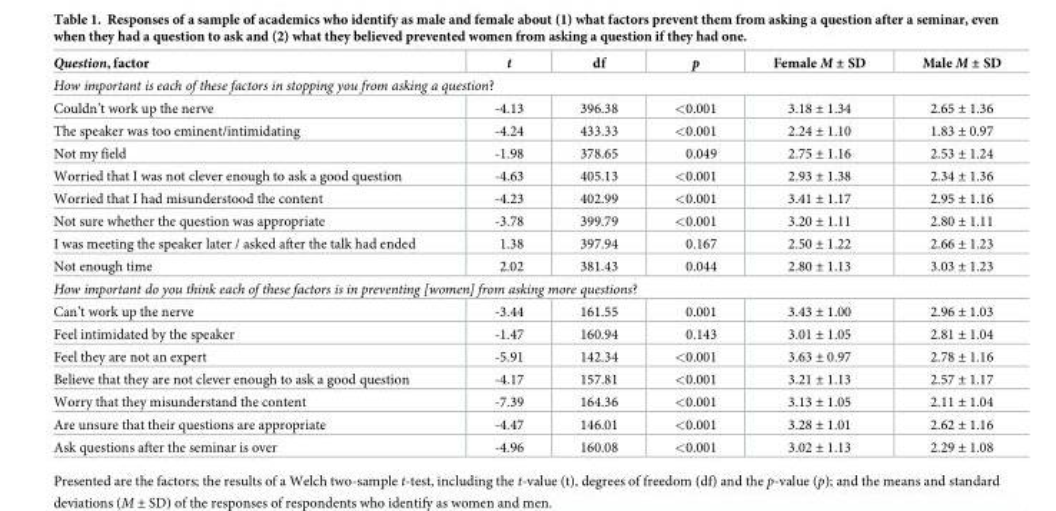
<table><thead><tr><td>Question, factor</td><td>t</td><td>df</td><td>p</td><td>Female M ± SD</td><td>Male M ± SD</td></tr></thead><tbody><tr><td colspan="6">How important is each of these factors in stopping you from asking a question?</td></tr><tr><td>Couldn’t work up the nerve</td><td>-4.13</td><td>396.38</td><td>&lt;0.001</td><td>3.18 ± 1.34</td><td>2.65 ± 1.36</td></tr><tr><td>The speaker was too eminent/intimidating</td><td>-4.24</td><td>433.33</td><td>&lt;0.001</td><td>2.24 ± 1.10</td><td>1.83 ± 0.97</td></tr><tr><td>Not my field</td><td>-1.98</td><td>378.65</td><td>0.049</td><td>2.75 ± 1.16</td><td>2.53 ± 1.24</td></tr><tr><td>Worried that I was not clever enough to ask a good question</td><td>-4.63</td><td>405.13</td><td>&lt;0.001</td><td>2.93 ± 1.38</td><td>2.34 ± 1.36</td></tr><tr><td>Worried that I had misunderstood the content</td><td>-4.23</td><td>402.99</td><td>&lt;0.001</td><td>3.41 ± 1.17</td><td>2.95 ± 1.16</td></tr><tr><td>Not sure whether the question was appropriate</td><td>-3.78</td><td>399.79</td><td>&lt;0.001</td><td>3.20 ± 1.11</td><td>2.80 ± 1.11</td></tr><tr><td>I was meeting the speaker later / asked after the talk had ended</td><td>1.38</td><td>397.94</td><td>0.167</td><td>2.50 ± 1.22</td><td>2.66 ± 1.23</td></tr><tr><td>Not enough time</td><td>2.02</td><td>381.43</td><td>0.044</td><td>2.80 ± 1.13</td><td>3.03 ± 1.23</td></tr><tr><td colspan="6">How important do you think each of these factors is in preventing [women] from asking more questions?</td></tr><tr><td>Can’t work up the nerve</td><td>-3.44</td><td>161.55</td><td>0.001</td><td>3.43 ± 1.00</td><td>2.96 ± 1.03</td></tr><tr><td>Feel intimidated by the speaker</td><td>-1.47</td><td>160.94</td><td>0.143</td><td>3.01 ± 1.05</td><td>2.81 ± 1.04</td></tr><tr><td>Feel they are not an expert</td><td>-5.91</td><td>142.34</td><td>&lt;0.001</td><td>3.63 ± 0.97</td><td>2.78 ± 1.16</td></tr><tr><td>Believe that they are not clever enough to ask a good question</td><td>-4.17</td><td>157.81</td><td>&lt;0.001</td><td>3.21 ± 1.13</td><td>2.57 ± 1.17</td></tr><tr><td>Worry that they misunderstand the content</td><td>-7.39</td><td>164.36</td><td>&lt;0.001</td><td>3.13 ± 1.05</td><td>2.11 ± 1.04</td></tr><tr><td>Are unsure that their questions are appropriate</td><td>-4.47</td><td>146.01</td><td>&lt;0.001</td><td>3.28 ± 1.01</td><td>2.62 ± 1.16</td></tr><tr><td>Ask questions after the seminar is over</td><td>-4.96</td><td>160.08</td><td>&lt;0.001</td><td>3.02 ± 1.13</td><td>2.29 ± 1.08</td></tr></tbody></table>